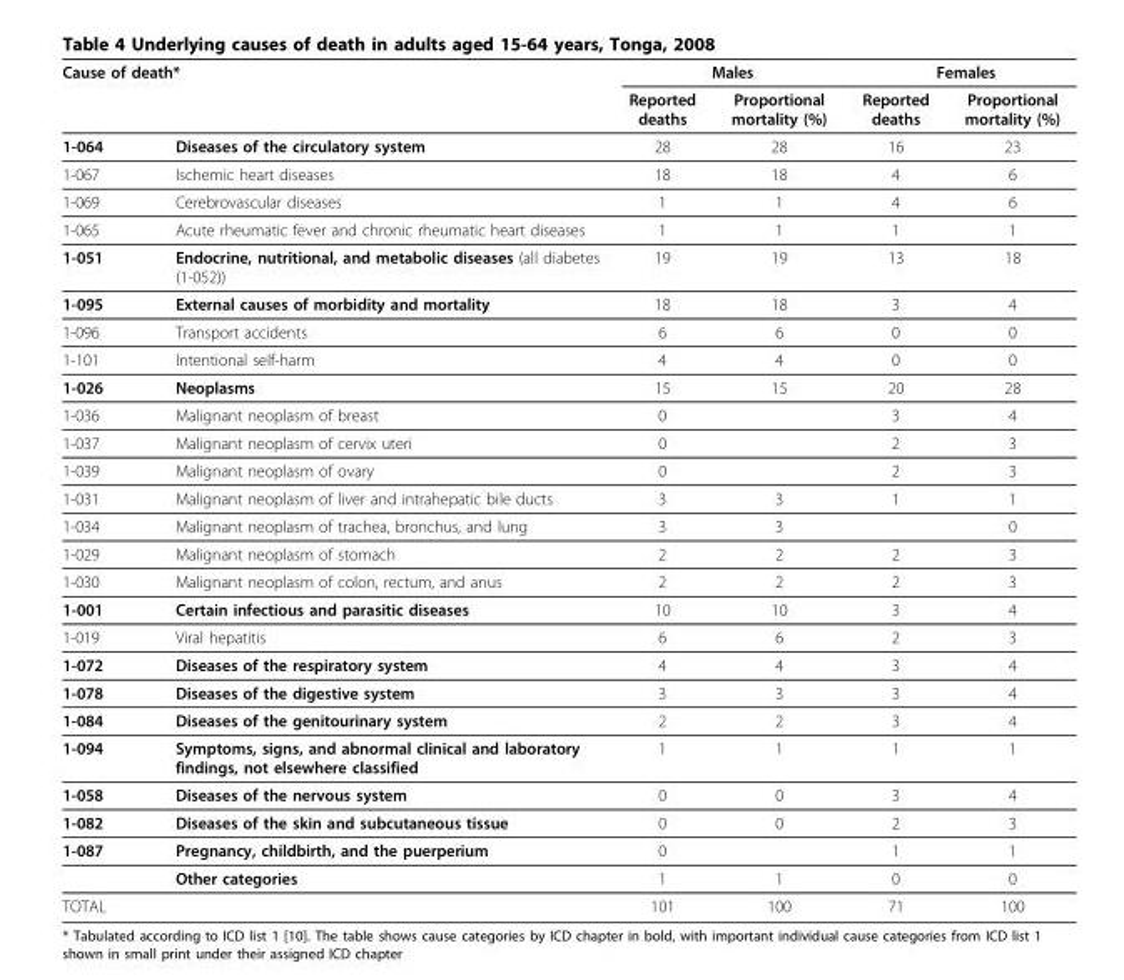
<table><thead><tr><td colspan="2">Cause of death*</td><td colspan="2">Males</td><td colspan="2">Females</td></tr><tr><td></td><td></td><td>Reported deaths</td><td>Proportional mortality (%)</td><td>Reported deaths</td><td>Proportional mortality (%)</td></tr></thead><tbody><tr><td>1-064</td><td>Diseases of the circulatory system</td><td>28</td><td>28</td><td>16</td><td>23</td></tr><tr><td>1-067</td><td>Ischemic heart diseases</td><td>18</td><td>18</td><td>4</td><td>6</td></tr><tr><td>1-069</td><td>Cerebrovascular diseases</td><td>1</td><td>1</td><td>4</td><td>6</td></tr><tr><td>1-065</td><td>Acute rheumatic fever and chronic rheumatic heart diseases</td><td>1</td><td>1</td><td>1</td><td>1</td></tr><tr><td>1-051</td><td>Endocrine, nutritional, and metabolic diseases (all diabetes (1-052))</td><td>19</td><td>19</td><td>13</td><td>18</td></tr><tr><td>1-095</td><td>External causes of morbidity and mortality</td><td>18</td><td>18</td><td>3</td><td>4</td></tr><tr><td>1-096</td><td>Transport accidents</td><td>6</td><td>6</td><td>0</td><td>0</td></tr><tr><td>1-101</td><td>Intentional self-harm</td><td>4</td><td>4</td><td>0</td><td>0</td></tr><tr><td>1-026</td><td>Neoplasms</td><td>15</td><td>15</td><td>20</td><td>28</td></tr><tr><td>1-036</td><td>Malignant neoplasm of breast</td><td>0</td><td></td><td>3</td><td>4</td></tr><tr><td>1-037</td><td>Malignant neoplasm of cervix uteri</td><td>0</td><td></td><td>2</td><td>3</td></tr><tr><td>1-039</td><td>Malignant neoplasm of ovary</td><td>0</td><td></td><td>2</td><td>3</td></tr><tr><td>1-031</td><td>Malignant neoplasm of liver and intrahepatic bile ducts</td><td>3</td><td>3</td><td>1</td><td>1</td></tr><tr><td>1-034</td><td>Malignant neoplasm of trachea, bronchus, and lung</td><td>3</td><td>3</td><td></td><td>0</td></tr><tr><td>1-029</td><td>Malignant neoplasm of stomach</td><td>2</td><td>2</td><td>2</td><td>3</td></tr><tr><td>1-030</td><td>Malignant neoplasm of colon, rectum, and anus</td><td>2</td><td>2</td><td>2</td><td>3</td></tr><tr><td>1-001</td><td>Certain infectious and parasitic diseases</td><td>10</td><td>10</td><td>3</td><td>4</td></tr><tr><td>1-019</td><td>Viral hepatitis</td><td>6</td><td>6</td><td>2</td><td>3</td></tr><tr><td>1-072</td><td>Diseases of the respiratory system</td><td>4</td><td>4</td><td>3</td><td>4</td></tr><tr><td>1-078</td><td>Diseases of the digestive system</td><td>3</td><td>3</td><td>3</td><td>4</td></tr><tr><td>1-084</td><td>Diseases of the genitourinary system</td><td>2</td><td>2</td><td>3</td><td>4</td></tr><tr><td>1-094</td><td>Symptoms, signs, and abnormal clinical and laboratory findings, not elsewhere classified</td><td>1</td><td>1</td><td>1</td><td>1</td></tr><tr><td>1-058</td><td>Diseases of the nervous system</td><td>0</td><td>0</td><td>3</td><td>4</td></tr><tr><td>1-082</td><td>Diseases of the skin and subcutaneous tissue</td><td>0</td><td>0</td><td>2</td><td>3</td></tr><tr><td rowspan="2">1-087</td><td>Pregnancy, childbirth, and the puerperium</td><td>0</td><td></td><td>1</td><td>1</td></tr><tr><td>Other categories</td><td>1</td><td>1</td><td>0</td><td>0</td></tr><tr><td colspan="2">TOTAL</td><td>101</td><td>100</td><td>71</td><td>100</td></tr></tbody></table>